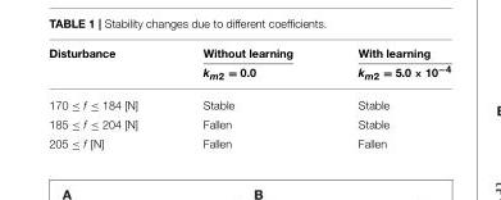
<table><thead><tr><td rowspan="2">Disturbance</td><td rowspan="2">Without learning k<sub>m2</sub> = 0.0</td><td rowspan="2">With learning k<sub>m2</sub> = 5.0 × 10<sup>−4</sup></td></tr><tr></tr></thead><tbody><tr><td>170 ≤ f ≤ 184 [N]</td><td>Stable</td><td>Stable</td></tr><tr><td>185 ≤ f ≤ 204 [N]</td><td>Fallen</td><td>Stable</td></tr><tr><td>205 ≤ f [N]</td><td>Fallen</td><td>Fallen</td></tr></tbody></table>